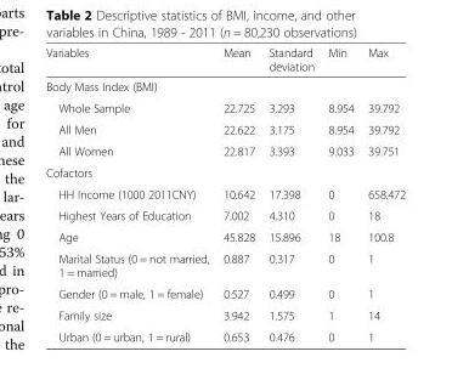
<table><thead><tr><td>Variables</td><td>Mean</td><td>Standard deviation</td><td>Min</td><td>Max</td></tr></thead><tbody><tr><td colspan="5">Body Mass Index (BMI)</td></tr><tr><td>Whole Sample</td><td>22.725</td><td>3.293</td><td>8.954</td><td>39.792</td></tr><tr><td>All Men</td><td>22.622</td><td>3.175</td><td>8.954</td><td>39.792</td></tr><tr><td>All Women</td><td>22.817</td><td>3.393</td><td>9.033</td><td>39.751</td></tr><tr><td colspan="5">Cofactors</td></tr><tr><td>HH Income (1000 2011CNY)</td><td>10.642</td><td>17.398</td><td>0</td><td>658.472</td></tr><tr><td>Highest Years of Education</td><td>7.002</td><td>4.310</td><td>0</td><td>18</td></tr><tr><td>Age</td><td>45.828</td><td>15.896</td><td>18</td><td>100.8</td></tr><tr><td>Marital Status (0 = not married, 1 = married)</td><td>0.887</td><td>0.317</td><td>0</td><td>1</td></tr><tr><td>Gender (0 = male, 1 = female)</td><td>0.527</td><td>0.499</td><td>0</td><td>1</td></tr><tr><td>Family size</td><td>3.942</td><td>1.575</td><td>1</td><td>14</td></tr><tr><td>Urban (0 = urban, 1 = rural)</td><td>0.653</td><td>0.476</td><td>0</td><td>1</td></tr></tbody></table>